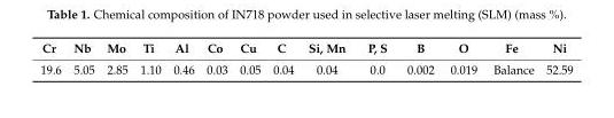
<table><thead><tr><td>Cr</td><td>Nb</td><td>Mo</td><td>Ti</td><td>Al</td><td>Co</td><td>Cu</td><td>C</td><td>Si, Mn</td><td>P, S</td><td>B</td><td>O</td><td>Fe</td><td>Ni</td></tr></thead><tbody><tr><td>19.6</td><td>5.05</td><td>2.85</td><td>1.10</td><td>0.46</td><td>0.03</td><td>0.05</td><td>0.04</td><td>0.04</td><td>0.0</td><td>0.002</td><td>0.019</td><td>Balance</td><td>52.59</td></tr></tbody></table>